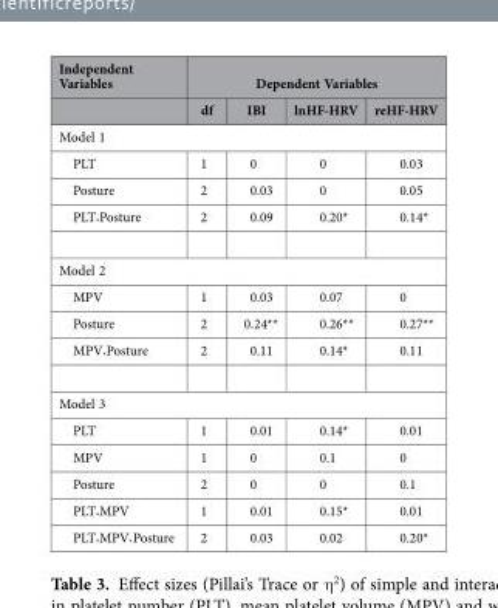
<table><thead><tr><td rowspan="2">Independent Variables</td><td colspan="4">Dependent Variables</td></tr><tr><td>df</td><td>IBI</td><td>lnHF-HRV</td><td>reHF-HRV</td></tr></thead><tbody><tr><td colspan="5">Model 1</td></tr><tr><td>PLT</td><td>1</td><td>0</td><td>0</td><td>0.03</td></tr><tr><td>Posture</td><td>2</td><td>0.03</td><td>0</td><td>0.05</td></tr><tr><td>PLT<sub>*</sub>Posture</td><td>2</td><td>0.09</td><td>0.20*</td><td>0.14*</td></tr><tr><td colspan="5">Model 2</td></tr><tr><td>MPV</td><td>1</td><td>0.03</td><td>0.07</td><td>0</td></tr><tr><td>Posture</td><td>2</td><td>0.24**</td><td>0.26**</td><td>0.27**</td></tr><tr><td>MPV<sub>*</sub>Posture</td><td>2</td><td>0.11</td><td>0.14*</td><td>0.11</td></tr><tr><td colspan="5">Model 3</td></tr><tr><td>PLT</td><td>1</td><td>0.01</td><td>0.14*</td><td>0.01</td></tr><tr><td>MPV</td><td>1</td><td>0</td><td>0.1</td><td>0</td></tr><tr><td>Posture</td><td>2</td><td>0</td><td>0</td><td>0.1</td></tr><tr><td>PLT<sub>*</sub>MPV</td><td>1</td><td>0.01</td><td>0.15*</td><td>0.01</td></tr><tr><td>PLT<sub>*</sub>MPV<sub>*</sub>Posture</td><td>2</td><td>0.03</td><td>0.02</td><td>0.20*</td></tr></tbody></table>